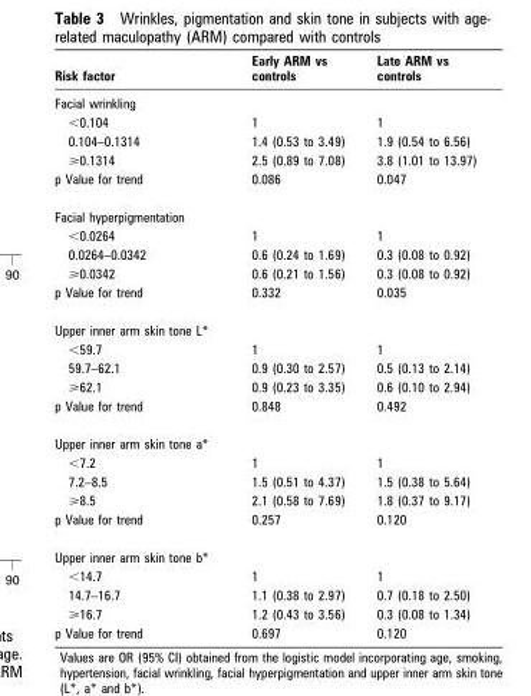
<table><thead><tr><td>Risk factor</td><td>Early ARM vs controls</td><td>Late ARM vs controls</td></tr></thead><tbody><tr><td colspan="3">Facial wrinkling</td></tr><tr><td>&lt;0.104</td><td>1</td><td>1</td></tr><tr><td>0.104–0.1314</td><td>1.4 (0.53 to 3.49)</td><td>1.9 (0.54 to 6.56)</td></tr><tr><td>&gt;0.1314</td><td>2.5 (0.89 to 7.08)</td><td>3.8 (1.01 to 13.97)</td></tr><tr><td>p Value for trend</td><td>0.086</td><td>0.047</td></tr><tr><td colspan="3">Facial hyperpigmentation</td></tr><tr><td>&lt;0.0264</td><td>1</td><td>1</td></tr><tr><td>0.0264–0.0342</td><td>0.6 (0.24 to 1.69)</td><td>0.3 (0.08 to 0.92)</td></tr><tr><td>&gt;0.0342</td><td>0.6 (0.21 to 1.56)</td><td>0.3 (0.08 to 0.92)</td></tr><tr><td>p Value for trend</td><td>0.332</td><td>0.035</td></tr><tr><td colspan="3">Upper inner arm skin tone L*</td></tr><tr><td>&lt;59.7</td><td>1</td><td>1</td></tr><tr><td>59.7–62.1</td><td>0.9 (0.30 to 2.57)</td><td>0.5 (0.13 to 2.14)</td></tr><tr><td>&gt;62.1</td><td>0.9 (0.23 to 3.35)</td><td>0.6 (0.10 to 2.94)</td></tr><tr><td>p Value for trend</td><td>0.848</td><td>0.492</td></tr><tr><td colspan="3">Upper inner arm skin tone a*</td></tr><tr><td>&lt;7.2</td><td>1</td><td>1</td></tr><tr><td>7.2–8.5</td><td>1.5 (0.51 to 4.37)</td><td>1.5 (0.38 to 5.64)</td></tr><tr><td>&gt;8.5</td><td>2.1 (0.58 to 7.69)</td><td>1.8 (0.37 to 9.17)</td></tr><tr><td>p Value for trend</td><td>0.257</td><td>0.120</td></tr><tr><td colspan="3">Upper inner arm skin tone b*</td></tr><tr><td>&lt;14.7</td><td>1</td><td>1</td></tr><tr><td>14.7–16.7</td><td>1.1 (0.38 to 2.97)</td><td>0.7 (0.18 to 2.50)</td></tr><tr><td>&gt;16.7</td><td>1.2 (0.43 to 3.56)</td><td>0.3 (0.08 to 1.34)</td></tr><tr><td>p Value for trend</td><td>0.697</td><td>0.120</td></tr></tbody></table>